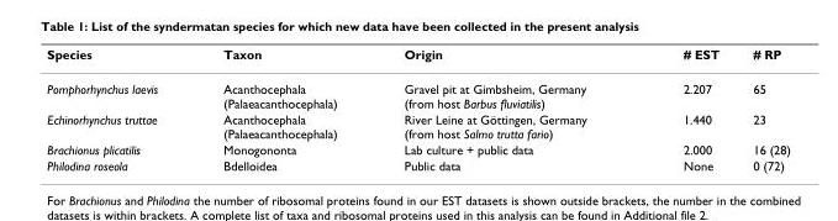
<table><thead><tr><td>Species</td><td>Taxon</td><td>Origin</td><td># EST</td><td># RP</td></tr></thead><tbody><tr><td>Pomphorhynchus laevis</td><td>Acanthocephala (Palaeacanthocephala)</td><td>Gravel pit at Gimbsheim, Germany (from host Barbus fluviatilis)</td><td>2.207</td><td>65</td></tr><tr><td>Echinorhynchus truttae</td><td>Acanthocephala (Palaeacanthocephala)</td><td>River Leine at Göttingen, Germany (from host Salmo trutta fario)</td><td>1.440</td><td>23</td></tr><tr><td>Brachionus plicatilis</td><td>Monogononta</td><td>Lab culture + public data</td><td>2.000</td><td>16 (28)</td></tr><tr><td>Philodina roseola</td><td>Bdelloidea</td><td>Public data</td><td>None</td><td>0 (72)</td></tr></tbody></table>